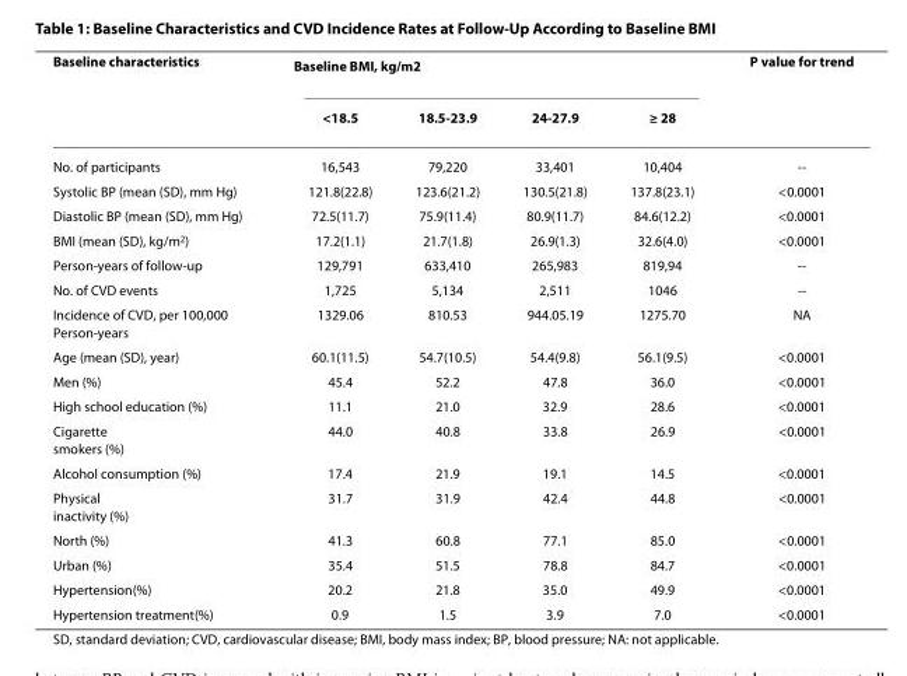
<table><thead><tr><td rowspan="2">Baseline characteristics</td><td colspan="4">Baseline BMI, kg/m<sup>2</sup></td><td rowspan="2">P value for trend</td></tr><tr><td>&lt;18.5</td><td>18.5-23.9</td><td>24-27.9</td><td>≥ 28</td></tr></thead><tbody><tr><td>No. of participants</td><td>16,543</td><td>79,220</td><td>33,401</td><td>10,404</td><td>--</td></tr><tr><td>Systolic BP (mean (SD), mm Hg)</td><td>121.8(22.8)</td><td>123.6(21.2)</td><td>130.5(21.8)</td><td>137.8(23.1)</td><td>&lt;0.0001</td></tr><tr><td>Diastolic BP (mean (SD), mm Hg)</td><td>72.5(11.7)</td><td>75.9(11.4)</td><td>80.9(11.7)</td><td>84.6(12.2)</td><td>&lt;0.0001</td></tr><tr><td>BMI (mean (SD), kg/m<sup>2</sup>)</td><td>17.2(1.1)</td><td>21.7(1.8)</td><td>26.9(1.3)</td><td>32.6(4.0)</td><td>&lt;0.0001</td></tr><tr><td>Person-years of follow-up</td><td>129,791</td><td>633,410</td><td>265,983</td><td>819,94</td><td>--</td></tr><tr><td>No. of CVD events</td><td>1,725</td><td>5,134</td><td>2,511</td><td>1046</td><td>--</td></tr><tr><td>Incidence of CVD, per 100,000 Person-years</td><td>1329.06</td><td>810.53</td><td>944.05.19</td><td>1275.70</td><td>NA</td></tr><tr><td>Age (mean (SD), year)</td><td>60.1(11.5)</td><td>54.7(10.5)</td><td>54.4(9.8)</td><td>56.1(9.5)</td><td>&lt;0.0001</td></tr><tr><td>Men (%)</td><td>45.4</td><td>52.2</td><td>47.8</td><td>36.0</td><td>&lt;0.0001</td></tr><tr><td>High school education (%)</td><td>11.1</td><td>21.0</td><td>32.9</td><td>28.6</td><td>&lt;0.0001</td></tr><tr><td>Cigarette smokers (%)</td><td>44.0</td><td>40.8</td><td>33.8</td><td>26.9</td><td>&lt;0.0001</td></tr><tr><td>Alcohol consumption (%)</td><td>17.4</td><td>21.9</td><td>19.1</td><td>14.5</td><td>&lt;0.0001</td></tr><tr><td>Physical inactivity (%)</td><td>31.7</td><td>31.9</td><td>42.4</td><td>44.8</td><td>&lt;0.0001</td></tr><tr><td>North (%)</td><td>41.3</td><td>60.8</td><td>77.1</td><td>85.0</td><td>&lt;0.0001</td></tr><tr><td>Urban (%)</td><td>35.4</td><td>51.5</td><td>78.8</td><td>84.7</td><td>&lt;0.0001</td></tr><tr><td>Hypertension(%)</td><td>20.2</td><td>21.8</td><td>35.0</td><td>49.9</td><td>&lt;0.0001</td></tr><tr><td>Hypertension treatment(%)</td><td>0.9</td><td>1.5</td><td>3.9</td><td>7.0</td><td>&lt;0.0001</td></tr></tbody></table>